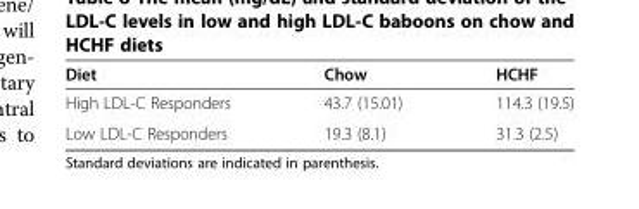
<table><thead><tr><td>Diet</td><td>Chow</td><td>HCHF</td></tr></thead><tbody><tr><td>High LDL-C Responders</td><td>43.7 (15.01)</td><td>114.3 (19.5)</td></tr><tr><td>Low LDL-C Responders</td><td>19.3 (8.1)</td><td>31.3 (2.5)</td></tr></tbody></table>